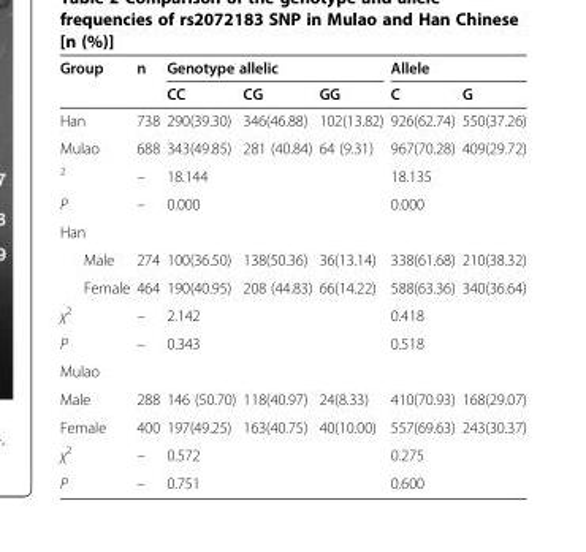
<table><thead><tr><td rowspan="2">Group</td><td rowspan="2">n</td><td colspan="3">Genotype allelic</td><td colspan="2">Allele</td></tr><tr><td>CC</td><td>CG</td><td>GG</td><td>C</td><td>G</td></tr></thead><tbody><tr><td>Han</td><td>738</td><td>290(39.30)</td><td>346(46.88)</td><td>102(13.82)</td><td>926(62.74)</td><td>550(37.26)</td></tr><tr><td>Mulao</td><td>688</td><td>343(49.85)</td><td>281 (40.84)</td><td>64 (9.31)</td><td>967(70.28)</td><td>409(29.72)</td></tr><tr><td><sup>2</sup></td><td>–</td><td colspan="3">18.144</td><td colspan="2">18.135</td></tr><tr><td>P</td><td>–</td><td colspan="3">0.000</td><td colspan="2">0.000</td></tr><tr><td colspan="7">Han</td></tr><tr><td>Male</td><td>274</td><td>100(36.50)</td><td>138(50.36)</td><td>36(13.14)</td><td>338(61.68)</td><td>210(38.32)</td></tr><tr><td>Female</td><td>464</td><td>190(40.95)</td><td>208 (44.83)</td><td>66(14.22)</td><td>588(63.36)</td><td>340(36.64)</td></tr><tr><td>χ<sup>2</sup></td><td>–</td><td colspan="3">2.142</td><td colspan="2">0.418</td></tr><tr><td>P</td><td>–</td><td colspan="3">0.343</td><td colspan="2">0.518</td></tr><tr><td colspan="7">Mulao</td></tr><tr><td>Male</td><td>288</td><td>146 (50.70)</td><td>118(40.97)</td><td>24(8.33)</td><td>410(70.93)</td><td>168(29.07)</td></tr><tr><td>Female</td><td>400</td><td>197(49.25)</td><td>163(40.75)</td><td>40(10.00)</td><td>557(69.63)</td><td>243(30.37)</td></tr><tr><td>χ<sup>2</sup></td><td>–</td><td colspan="3">0.572</td><td colspan="2">0.275</td></tr><tr><td>P</td><td>–</td><td colspan="3">0.751</td><td colspan="2">0.600</td></tr></tbody></table>